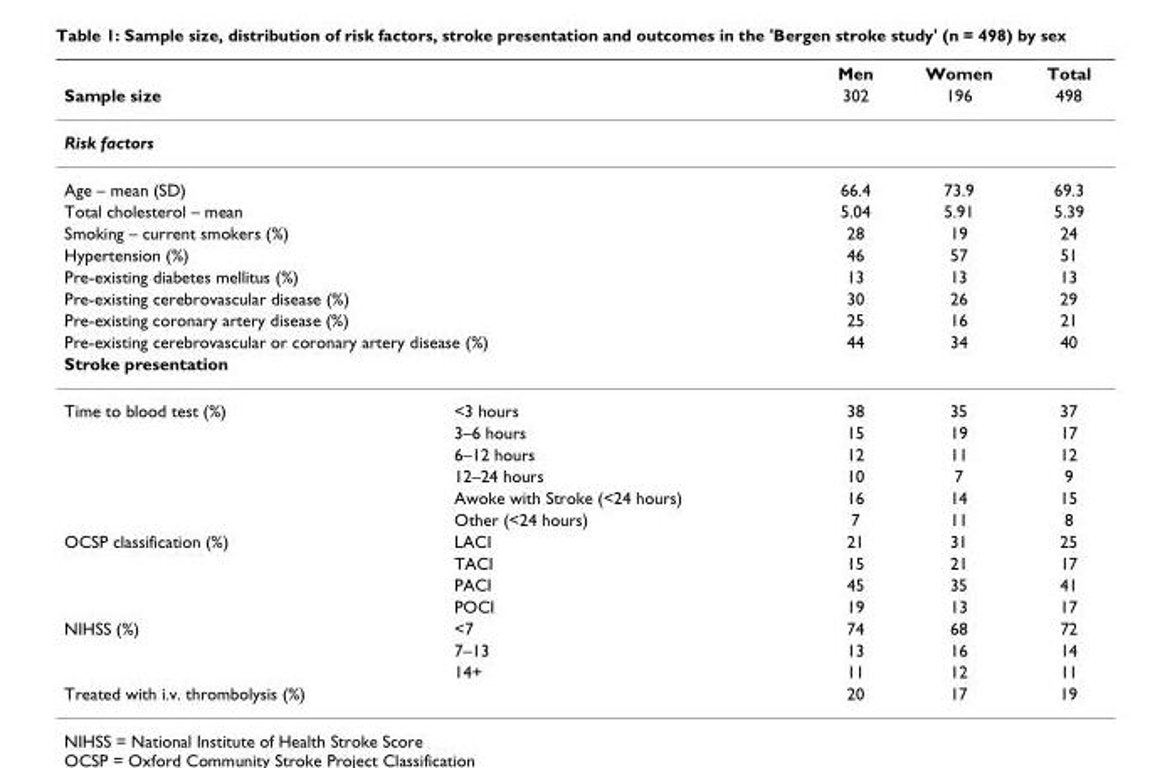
<table><thead><tr><td rowspan="2">Sample size</td><td rowspan="2"></td><td rowspan="2">Men 302</td><td rowspan="2">Women 196</td><td rowspan="2">Total 498</td></tr><tr></tr></thead><tbody><tr><td colspan="5">Risk factors</td></tr><tr><td colspan="2">Age – mean (SD)</td><td>66.4</td><td>73.9</td><td>69.3</td></tr><tr><td colspan="2">Total cholesterol – mean</td><td>5.04</td><td>5.91</td><td>5.39</td></tr><tr><td colspan="2">Smoking – current smokers (%)</td><td>28</td><td>19</td><td>24</td></tr><tr><td colspan="2">Hypertension (%)</td><td>46</td><td>57</td><td>51</td></tr><tr><td colspan="2">Pre-existing diabetes mellitus (%)</td><td>13</td><td>13</td><td>13</td></tr><tr><td colspan="2">Pre-existing cerebrovascular disease (%)</td><td>30</td><td>26</td><td>29</td></tr><tr><td colspan="2">Pre-existing coronary artery disease (%)</td><td>25</td><td>16</td><td>21</td></tr><tr><td colspan="2">Pre-existing cerebrovascular or coronary artery disease (%)</td><td>44</td><td>34</td><td>40</td></tr><tr><td colspan="5">Stroke presentation</td></tr><tr><td rowspan="6">Time to blood test (%)</td><td>&lt;3 hours</td><td>38</td><td>35</td><td>37</td></tr><tr><td>3–6 hours</td><td>15</td><td>19</td><td>17</td></tr><tr><td>6–12 hours</td><td>12</td><td>11</td><td>12</td></tr><tr><td>12–24 hours</td><td>10</td><td>7</td><td>9</td></tr><tr><td>Awoke with Stroke (&lt;24 hours)</td><td>16</td><td>14</td><td>15</td></tr><tr><td>Other (&lt;24 hours)</td><td>7</td><td>11</td><td>8</td></tr><tr><td rowspan="4">OCSP classification (%)</td><td>LACI</td><td>21</td><td>31</td><td>25</td></tr><tr><td>TACI</td><td>15</td><td>21</td><td>17</td></tr><tr><td>PACI</td><td>45</td><td>35</td><td>41</td></tr><tr><td>POCI</td><td>19</td><td>13</td><td>17</td></tr><tr><td rowspan="3">NIHSS (%)</td><td>&lt;7</td><td>74</td><td>68</td><td>72</td></tr><tr><td>7–13</td><td>13</td><td>16</td><td>14</td></tr><tr><td>14+</td><td>11</td><td>12</td><td>11</td></tr><tr><td>Treated with i.v. thrombolysis (%)</td><td></td><td>20</td><td>17</td><td>19</td></tr></tbody></table>